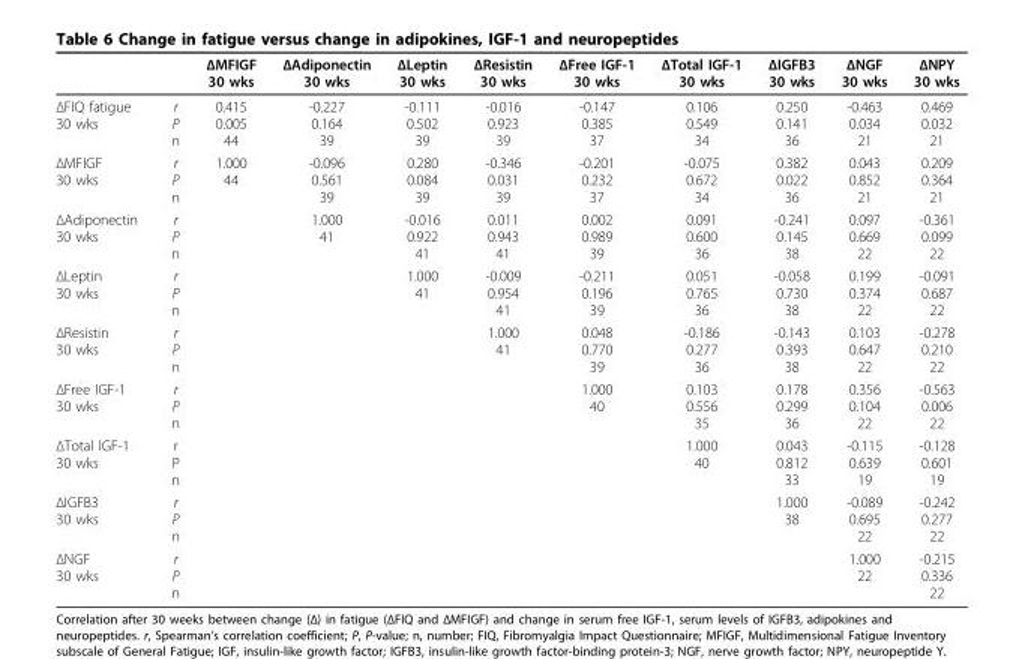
<table><thead><tr><td></td><td></td><td>ΔMFIGF 30 wks</td><td>ΔAdiponectin 30 wks</td><td>ΔLeptin 30 wks</td><td>ΔResistin 30 wks</td><td>ΔFree IGF-1 30 wks</td><td>ΔTotal IGF-1 30 wks</td><td>ΔIGFB3 30 wks</td><td>ΔNGF 30 wks</td><td>ΔNPY 30 wks</td></tr></thead><tbody><tr><td>ΔFIQ fatigue 30 wks</td><td>r P n</td><td>0.415 0.005 44</td><td>-0.227 0.164 39</td><td>-0.111 0.502 39</td><td>-0.016 0.923 39</td><td>-0.147 0.385 37</td><td>0.106 0.549 34</td><td>0.250 0.141 36</td><td>-0.463 0.034 21</td><td>0.469 0.032 21</td></tr><tr><td>ΔMFIGF 30 wks</td><td>r P n</td><td>1.000 44</td><td>-0.096 0.561 39</td><td>0.280 0.084 39</td><td>-0.346 0.031 39</td><td>-0.201 0.232 37</td><td>-0.075 0.672 34</td><td>0.382 0.022 36</td><td>0.043 0.852 21</td><td>0.209 0.364 21</td></tr><tr><td>ΔAdiponectin 30 wks</td><td>r P n</td><td></td><td>1.000 41</td><td>-0.016 0.922 41</td><td>0.011 0.943 41</td><td>0.002 0.989 39</td><td>0.091 0.600 36</td><td>-0.241 0.145 38</td><td>0.097 0.669 22</td><td>-0.361 0.099 22</td></tr><tr><td>ΔLeptin 30 wks</td><td>r P n</td><td></td><td></td><td>1.000 41</td><td>-0.009 0.954 41</td><td>-0.211 0.196 39</td><td>0.051 0.765 36</td><td>-0.058 0.730 38</td><td>0.199 0.374 22</td><td>-0.091 0.687 22</td></tr><tr><td>ΔResistin 30 wks</td><td>r P n</td><td></td><td></td><td></td><td>1.000 41</td><td>0.048 0.770 39</td><td>-0.186 0.277 36</td><td>-0.143 0.393 38</td><td>0.103 0.647 22</td><td>-0.278 0.210 22</td></tr><tr><td>ΔFree IGF-1 30 wks</td><td>r P n</td><td></td><td></td><td></td><td></td><td>1.000 40</td><td>0.103 0.556 35</td><td>0.178 0.299 36</td><td>0.356 0.104 22</td><td>-0.563 0.006 22</td></tr><tr><td>ΔTotal IGF-1 30 wks</td><td>r P n</td><td></td><td></td><td></td><td></td><td></td><td>1.000 40</td><td>0.043 0.812 33</td><td>-0.115 0.639 19</td><td>-0.128 0.601 19</td></tr><tr><td>ΔIGFB3 30 wks</td><td>r P n</td><td></td><td></td><td></td><td></td><td></td><td></td><td>1.000 38</td><td>-0.089 0.695 22</td><td>-0.242 0.277 22</td></tr><tr><td>ΔNGF 30 wks</td><td>r P n</td><td></td><td></td><td></td><td></td><td></td><td></td><td></td><td>1.000 22</td><td>-0.215 0.336 22</td></tr></tbody></table>